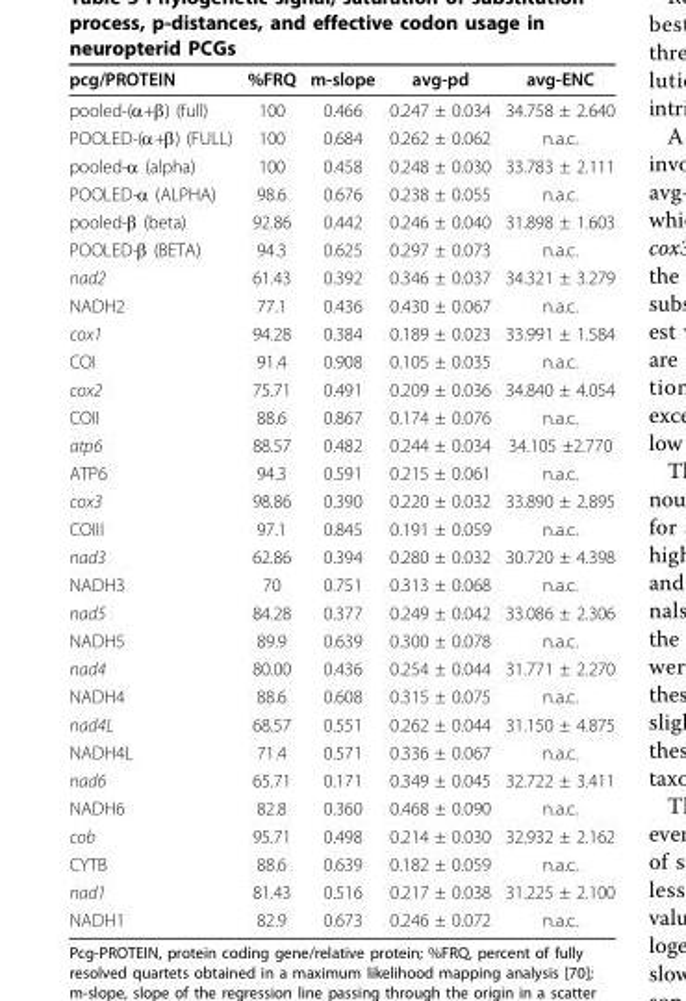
<table><thead><tr><td>pcg/PROTEIN</td><td>%FRQ</td><td>m-slope</td><td>avg-pd</td><td>avg-ENC</td></tr></thead><tbody><tr><td>pooled-(α+β) (full)</td><td>100</td><td>0.466</td><td>0.247 ± 0.034</td><td>34.758 ± 2.640</td></tr><tr><td>POOLED-(α+β) (FULL)</td><td>100</td><td>0.684</td><td>0.262 ± 0.062</td><td>n.a.c.</td></tr><tr><td>pooled-α (alpha)</td><td>100</td><td>0.458</td><td>0.248 ± 0.030</td><td>33.783 ± 2.111</td></tr><tr><td>POOLED-α (ALPHA)</td><td>98.6</td><td>0.676</td><td>0.238 ± 0.055</td><td>n.a.c.</td></tr><tr><td>pooled-β (beta)</td><td>92.86</td><td>0.442</td><td>0.246 ± 0.040</td><td>31.898 ± 1.603</td></tr><tr><td>POOLED-β (BETA)</td><td>94.3</td><td>0.625</td><td>0.297 ± 0.073</td><td>n.a.c.</td></tr><tr><td>nad2</td><td>61.43</td><td>0.392</td><td>0.346 ± 0.037</td><td>34.321 ± 3.279</td></tr><tr><td>NADH2</td><td>77.1</td><td>0.436</td><td>0.430 ± 0.067</td><td>n.a.c.</td></tr><tr><td>cox1</td><td>94.28</td><td>0.384</td><td>0.189 ± 0.023</td><td>33.991 ± 1.584</td></tr><tr><td>COI</td><td>91.4</td><td>0.908</td><td>0.105 ± 0.035</td><td>n.a.c.</td></tr><tr><td>cox2</td><td>75.71</td><td>0.491</td><td>0.209 ± 0.036</td><td>34.840 ± 4.054</td></tr><tr><td>COII</td><td>88.6</td><td>0.867</td><td>0.174 ± 0.076</td><td>n.a.c.</td></tr><tr><td>atp6</td><td>88.57</td><td>0.482</td><td>0.244 ± 0.034</td><td>34.105 ±2.770</td></tr><tr><td>ATP6</td><td>94.3</td><td>0.591</td><td>0.215 ± 0.061</td><td>n.a.c.</td></tr><tr><td>cox3</td><td>98.86</td><td>0.390</td><td>0.220 ± 0.032</td><td>33.890 ± 2.895</td></tr><tr><td>COIII</td><td>97.1</td><td>0.845</td><td>0.191 ± 0.059</td><td>n.a.c.</td></tr><tr><td>nad3</td><td>62.86</td><td>0.394</td><td>0.280 ± 0.032</td><td>30.720 ± 4.398</td></tr><tr><td>NADH3</td><td>70</td><td>0.751</td><td>0.313 ± 0.068</td><td>n.a.c.</td></tr><tr><td>nad5</td><td>84.28</td><td>0.377</td><td>0.249 ± 0.042</td><td>33.086 ± 2.306</td></tr><tr><td>NADH5</td><td>89.9</td><td>0.639</td><td>0.300 ± 0.078</td><td>n.a.c.</td></tr><tr><td>nad4</td><td>80.00</td><td>0.436</td><td>0.254 ± 0.044</td><td>31.771 ± 2.270</td></tr><tr><td>NADH4</td><td>88.6</td><td>0.608</td><td>0.315 ± 0.075</td><td>n.a.c.</td></tr><tr><td>nad4L</td><td>68.57</td><td>0.551</td><td>0.262 ± 0.044</td><td>31.150 ± 4.875</td></tr><tr><td>NADH4L</td><td>71.4</td><td>0.571</td><td>0.336 ± 0.067</td><td>n.a.c.</td></tr><tr><td>nad6</td><td>65.71</td><td>0.171</td><td>0.349 ± 0.045</td><td>32.722 ± 3.411</td></tr><tr><td>NADH6</td><td>82.8</td><td>0.360</td><td>0.468 ± 0.090</td><td>n.a.c.</td></tr><tr><td>cob</td><td>95.71</td><td>0.498</td><td>0.214 ± 0.030</td><td>32.932 ± 2.162</td></tr><tr><td>CYTB</td><td>88.6</td><td>0.639</td><td>0.182 ± 0.059</td><td>n.a.c.</td></tr><tr><td>nad1</td><td>81.43</td><td>0.516</td><td>0.217 ± 0.038</td><td>31.225 ± 2.100</td></tr><tr><td>NADH1</td><td>82.9</td><td>0.673</td><td>0.246 ± 0.072</td><td>n.a.c.</td></tr></tbody></table>